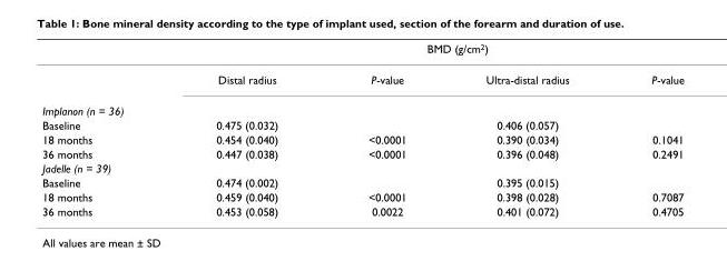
<table><thead><tr><td rowspan="2"></td><td colspan="4">BMD (g/cm<sup>2</sup>)</td></tr><tr><td>Distal radius</td><td>P-value</td><td>Ultra-distal radius</td><td>P-value</td></tr></thead><tbody><tr><td colspan="5">Implanon (n = 36)</td></tr><tr><td>Baseline</td><td>0.475 (0.032)</td><td></td><td>0.406 (0.057)</td><td></td></tr><tr><td>18 months</td><td>0.454 (0.040)</td><td>&lt;0.0001</td><td>0.390 (0.034)</td><td>0.1041</td></tr><tr><td>36 months</td><td>0.447 (0.038)</td><td>&lt;0.0001</td><td>0.396 (0.048)</td><td>0.2491</td></tr><tr><td colspan="5">Jadelle (n = 39)</td></tr><tr><td>Baseline</td><td>0.474 (0.002)</td><td></td><td>0.395 (0.015)</td><td></td></tr><tr><td>18 months</td><td>0.459 (0.040)</td><td>&lt;0.0001</td><td>0.398 (0.028)</td><td>0.7087</td></tr><tr><td>36 months</td><td>0.453 (0.058)</td><td>0.0022</td><td>0.401 (0.072)</td><td>0.4705</td></tr></tbody></table>